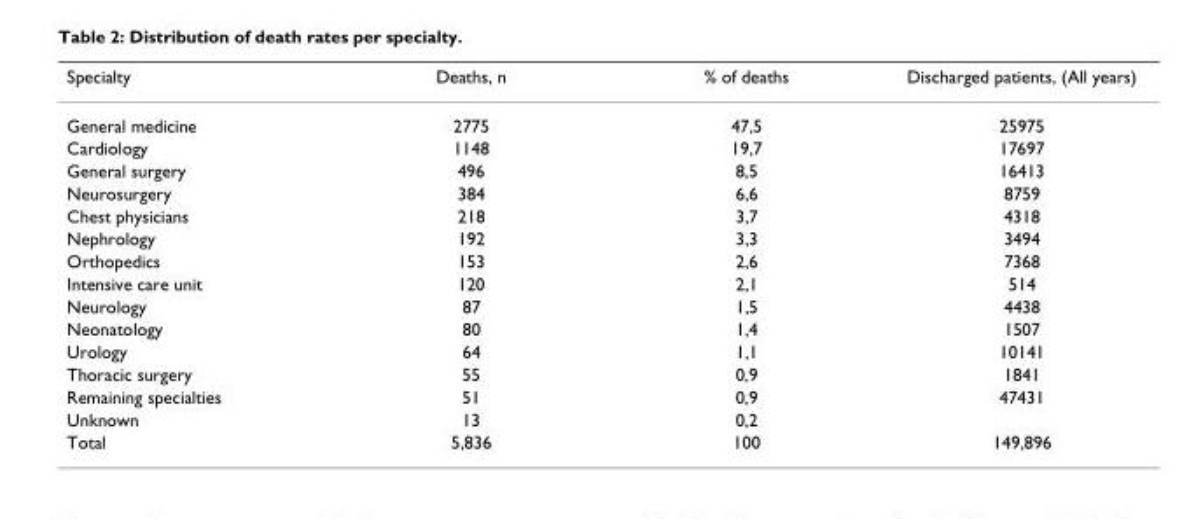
<table><thead><tr><td>Specialty</td><td>Deaths, n</td><td>% of deaths</td><td>Discharged patients, (All years)</td></tr></thead><tbody><tr><td>General medicine</td><td>2775</td><td>47,5</td><td>25975</td></tr><tr><td>Cardiology</td><td>1148</td><td>19,7</td><td>17697</td></tr><tr><td>General surgery</td><td>496</td><td>8,5</td><td>16413</td></tr><tr><td>Neurosurgery</td><td>384</td><td>6,6</td><td>8759</td></tr><tr><td>Chest physicians</td><td>218</td><td>3,7</td><td>4318</td></tr><tr><td>Nephrology</td><td>192</td><td>3,3</td><td>3494</td></tr><tr><td>Orthopedics</td><td>153</td><td>2,6</td><td>7368</td></tr><tr><td>Intensive care unit</td><td>120</td><td>2,1</td><td>514</td></tr><tr><td>Neurology</td><td>87</td><td>1,5</td><td>4438</td></tr><tr><td>Neonatology</td><td>80</td><td>1,4</td><td>1507</td></tr><tr><td>Urology</td><td>64</td><td>1,1</td><td>10141</td></tr><tr><td>Thoracic surgery</td><td>55</td><td>0,9</td><td>1841</td></tr><tr><td>Remaining specialties</td><td>51</td><td>0,9</td><td>47431</td></tr><tr><td>Unknown</td><td>13</td><td>0,2</td><td></td></tr><tr><td>Total</td><td>5,836</td><td>100</td><td>149,896</td></tr></tbody></table>